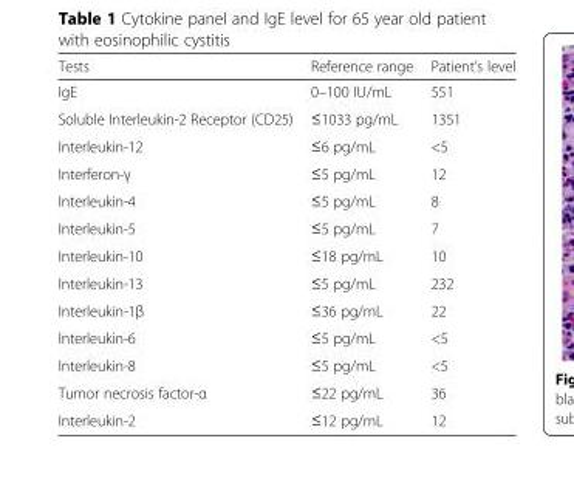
<table><thead><tr><td>Tests</td><td>Reference range</td><td>Patient’s level</td></tr></thead><tbody><tr><td>IgE</td><td>0–100 IU/mL</td><td>551</td></tr><tr><td>Soluble Interleukin-2 Receptor (CD25)</td><td>≤1033 pg/mL</td><td>1351</td></tr><tr><td>Interleukin-12</td><td>≤6 pg/mL</td><td>&lt;5</td></tr><tr><td>Interferon-γ</td><td>≤5 pg/mL</td><td>12</td></tr><tr><td>Interleukin-4</td><td>≤5 pg/mL</td><td>8</td></tr><tr><td>Interleukin-5</td><td>≤5 pg/mL</td><td>7</td></tr><tr><td>Interleukin-10</td><td>≤18 pg/mL</td><td>10</td></tr><tr><td>Interleukin-13</td><td>≤5 pg/mL</td><td>232</td></tr><tr><td>Interleukin-1β</td><td>≤36 pg/mL</td><td>22</td></tr><tr><td>Interleukin-6</td><td>≤5 pg/mL</td><td>&lt;5</td></tr><tr><td>Interleukin-8</td><td>≤5 pg/mL</td><td>&lt;5</td></tr><tr><td>Tumor necrosis factor-α</td><td>≤22 pg/mL</td><td>36</td></tr><tr><td>Interleukin-2</td><td>≤12 pg/mL</td><td>12</td></tr></tbody></table>